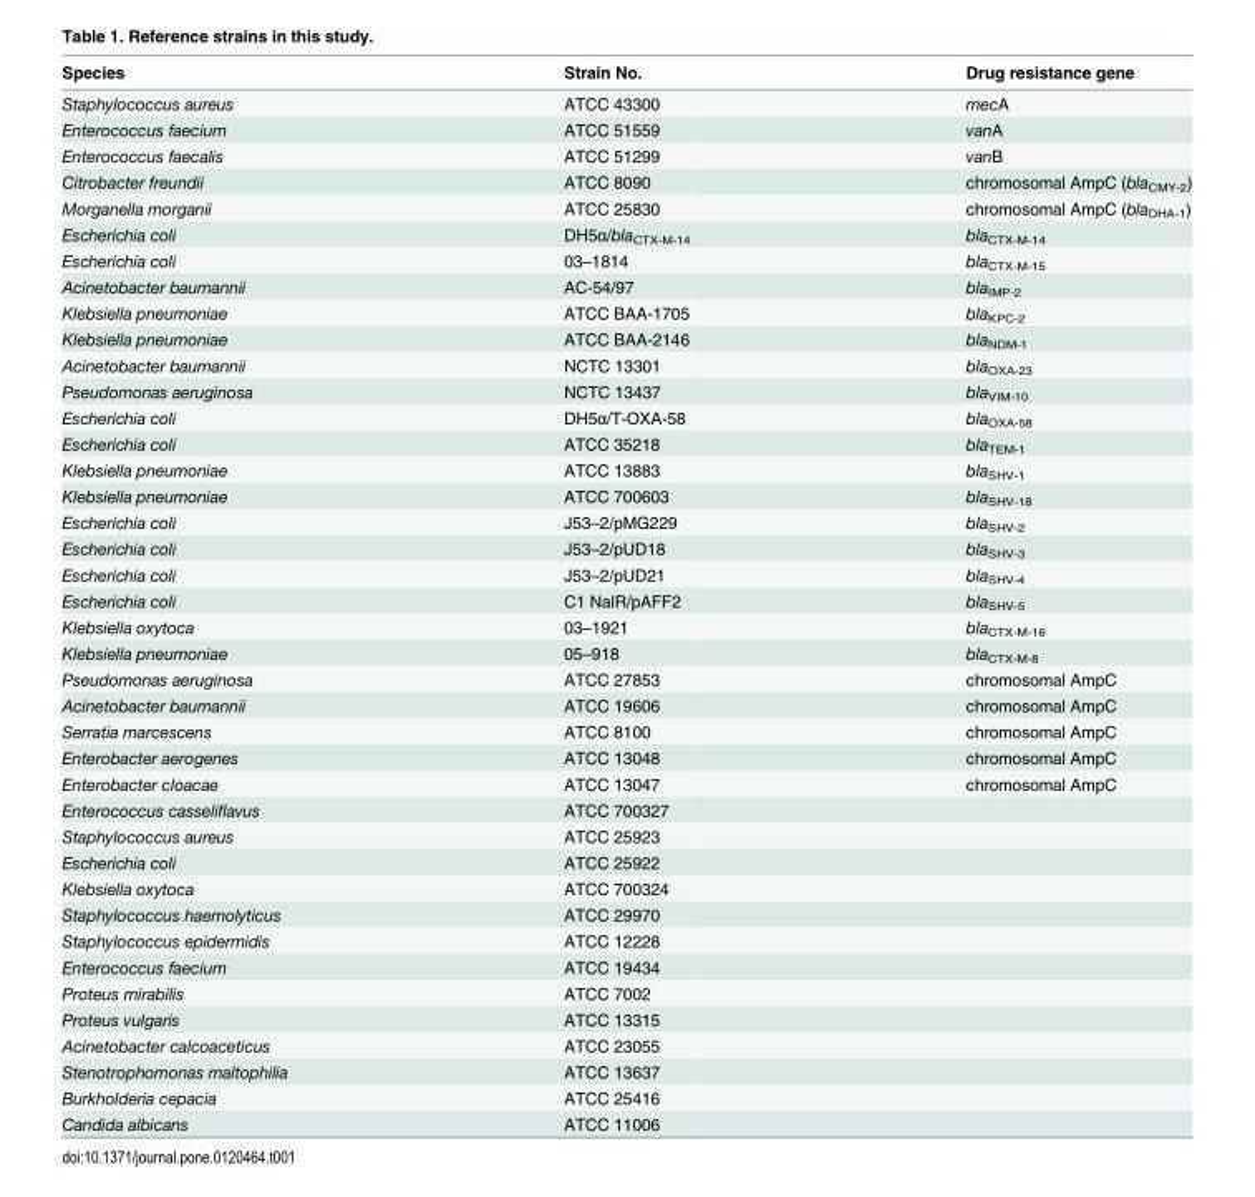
<table><thead><tr><td>Species</td><td>Strain No.</td><td>Drug resistance gene</td></tr></thead><tbody><tr><td>Staphylococcus aureus</td><td>ATCC 43300</td><td>mecA</td></tr><tr><td>Enterococcus faecium</td><td>ATCC 51559</td><td>vanA</td></tr><tr><td>Enterococcus faecalis</td><td>ATCC 51299</td><td>vanB</td></tr><tr><td>Citrobacter freundii</td><td>ATCC 8090</td><td>chromosomal AmpC (bla<sub>CMY-2</sub>)</td></tr><tr><td>Morganella morganii</td><td>ATCC 25830</td><td>chromosomal AmpC (bla<sub>DHA-1</sub>)</td></tr><tr><td>Escherichia coli</td><td>DH5α/bla<sub>CTX-M-14</sub></td><td>bla<sub>CTX-M-14</sub></td></tr><tr><td>Escherichia coli</td><td>03–1814</td><td>bla<sub>CTX-M-15</sub></td></tr><tr><td>Acinetobacter baumannii</td><td>AC-54/97</td><td>bla<sub>IMP-2</sub></td></tr><tr><td>Klebsiella pneumoniae</td><td>ATCC BAA-1705</td><td>bla<sub>KPC-2</sub></td></tr><tr><td>Klebsiella pneumoniae</td><td>ATCC BAA-2146</td><td>bla<sub>NDM-1</sub></td></tr><tr><td>Acinetobacter baumannii</td><td>NCTC 13301</td><td>bla<sub>OXA-23</sub></td></tr><tr><td>Pseudomonas aeruginosa</td><td>NCTC 13437</td><td>bla<sub>VIM-10</sub></td></tr><tr><td>Escherichia coli</td><td>DH5α/T-OXA-58</td><td>bla<sub>OXA-58</sub></td></tr><tr><td>Escherichia coli</td><td>ATCC 35218</td><td>bla<sub>TEM-1</sub></td></tr><tr><td>Klebsiella pneumoniae</td><td>ATCC 13883</td><td>bla<sub>SHV-1</sub></td></tr><tr><td>Klebsiella pneumoniae</td><td>ATCC 700603</td><td>bla<sub>SHV-18</sub></td></tr><tr><td>Escherichia coli</td><td>J53–2/pMG229</td><td>bla<sub>SHV-2</sub></td></tr><tr><td>Escherichia coli</td><td>J53–2/pUD18</td><td>bla<sub>SHV-3</sub></td></tr><tr><td>Escherichia coli</td><td>J53–2/pUD21</td><td>bla<sub>SHV-4</sub></td></tr><tr><td>Escherichia coli</td><td>C1 NalR/pAFF2</td><td>bla<sub>SHV-5</sub></td></tr><tr><td>Klebsiella oxytoca</td><td>03–1921</td><td>bla<sub>CTX-M-16</sub></td></tr><tr><td>Klebsiella pneumoniae</td><td>05–918</td><td>bla<sub>CTX-M-8</sub></td></tr><tr><td>Pseudomonas aeruginosa</td><td>ATCC 27853</td><td>chromosomal AmpC</td></tr><tr><td>Acinetobacter baumannii</td><td>ATCC 19606</td><td>chromosomal AmpC</td></tr><tr><td>Serratia marcescens</td><td>ATCC 8100</td><td>chromosomal AmpC</td></tr><tr><td>Enterobacter aerogenes</td><td>ATCC 13048</td><td>chromosomal AmpC</td></tr><tr><td>Enterobacter cloacae</td><td>ATCC 13047</td><td>chromosomal AmpC</td></tr><tr><td>Enterococcus casseliflavus</td><td>ATCC 700327</td><td></td></tr><tr><td>Staphylococcus aureus</td><td>ATCC 25923</td><td></td></tr><tr><td>Escherichia coli</td><td>ATCC 25922</td><td></td></tr><tr><td>Klebsiella oxytoca</td><td>ATCC 700324</td><td></td></tr><tr><td>Staphylococcus haemolyticus</td><td>ATCC 29970</td><td></td></tr><tr><td>Staphylococcus epidermidis</td><td>ATCC 12228</td><td></td></tr><tr><td>Enterococcus faecium</td><td>ATCC 19434</td><td></td></tr><tr><td>Proteus mirabilis</td><td>ATCC 7002</td><td></td></tr><tr><td>Proteus vulgaris</td><td>ATCC 13315</td><td></td></tr><tr><td>Acinetobacter calcoaceticus</td><td>ATCC 23055</td><td></td></tr><tr><td>Stenotrophomonas maltophilia</td><td>ATCC 13637</td><td></td></tr><tr><td>Burkholderia cepacia</td><td>ATCC 25416</td><td></td></tr><tr><td>Candida albicans</td><td>ATCC 11006</td><td></td></tr></tbody></table>